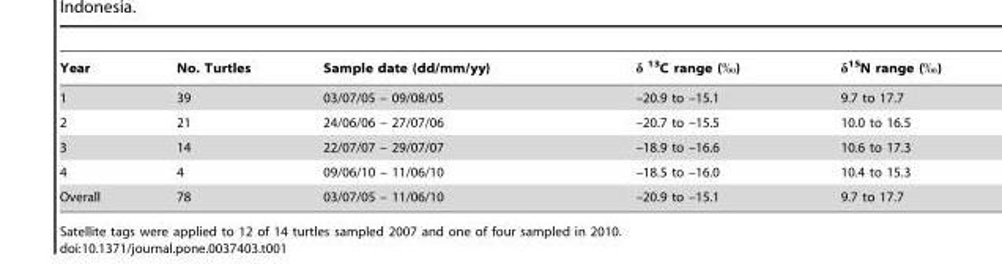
<table><thead><tr><td>Year</td><td>No. Turtles</td><td>Sample date (dd/mm/yy)</td><td>δ <sup>13</sup>C range (‰)</td><td>δ<sup>15</sup>N range (‰)</td></tr></thead><tbody><tr><td>1</td><td>39</td><td>03/07/05 – 09/08/05</td><td>–20.9 to –15.1</td><td>9.7 to 17.7</td></tr><tr><td>2</td><td>21</td><td>24/06/06 – 27/07/06</td><td>–20.7 to –15.5</td><td>10.0 to 16.5</td></tr><tr><td>3</td><td>14</td><td>22/07/07 – 29/07/07</td><td>–18.9 to –16.6</td><td>10.6 to 17.3</td></tr><tr><td>4</td><td>4</td><td>09/06/10 – 11/06/10</td><td>–18.5 to –16.0</td><td>10.4 to 15.3</td></tr><tr><td>Overall</td><td>78</td><td>03/07/05 – 11/06/10</td><td>–20.9 to –15.1</td><td>9.7 to 17.7</td></tr></tbody></table>